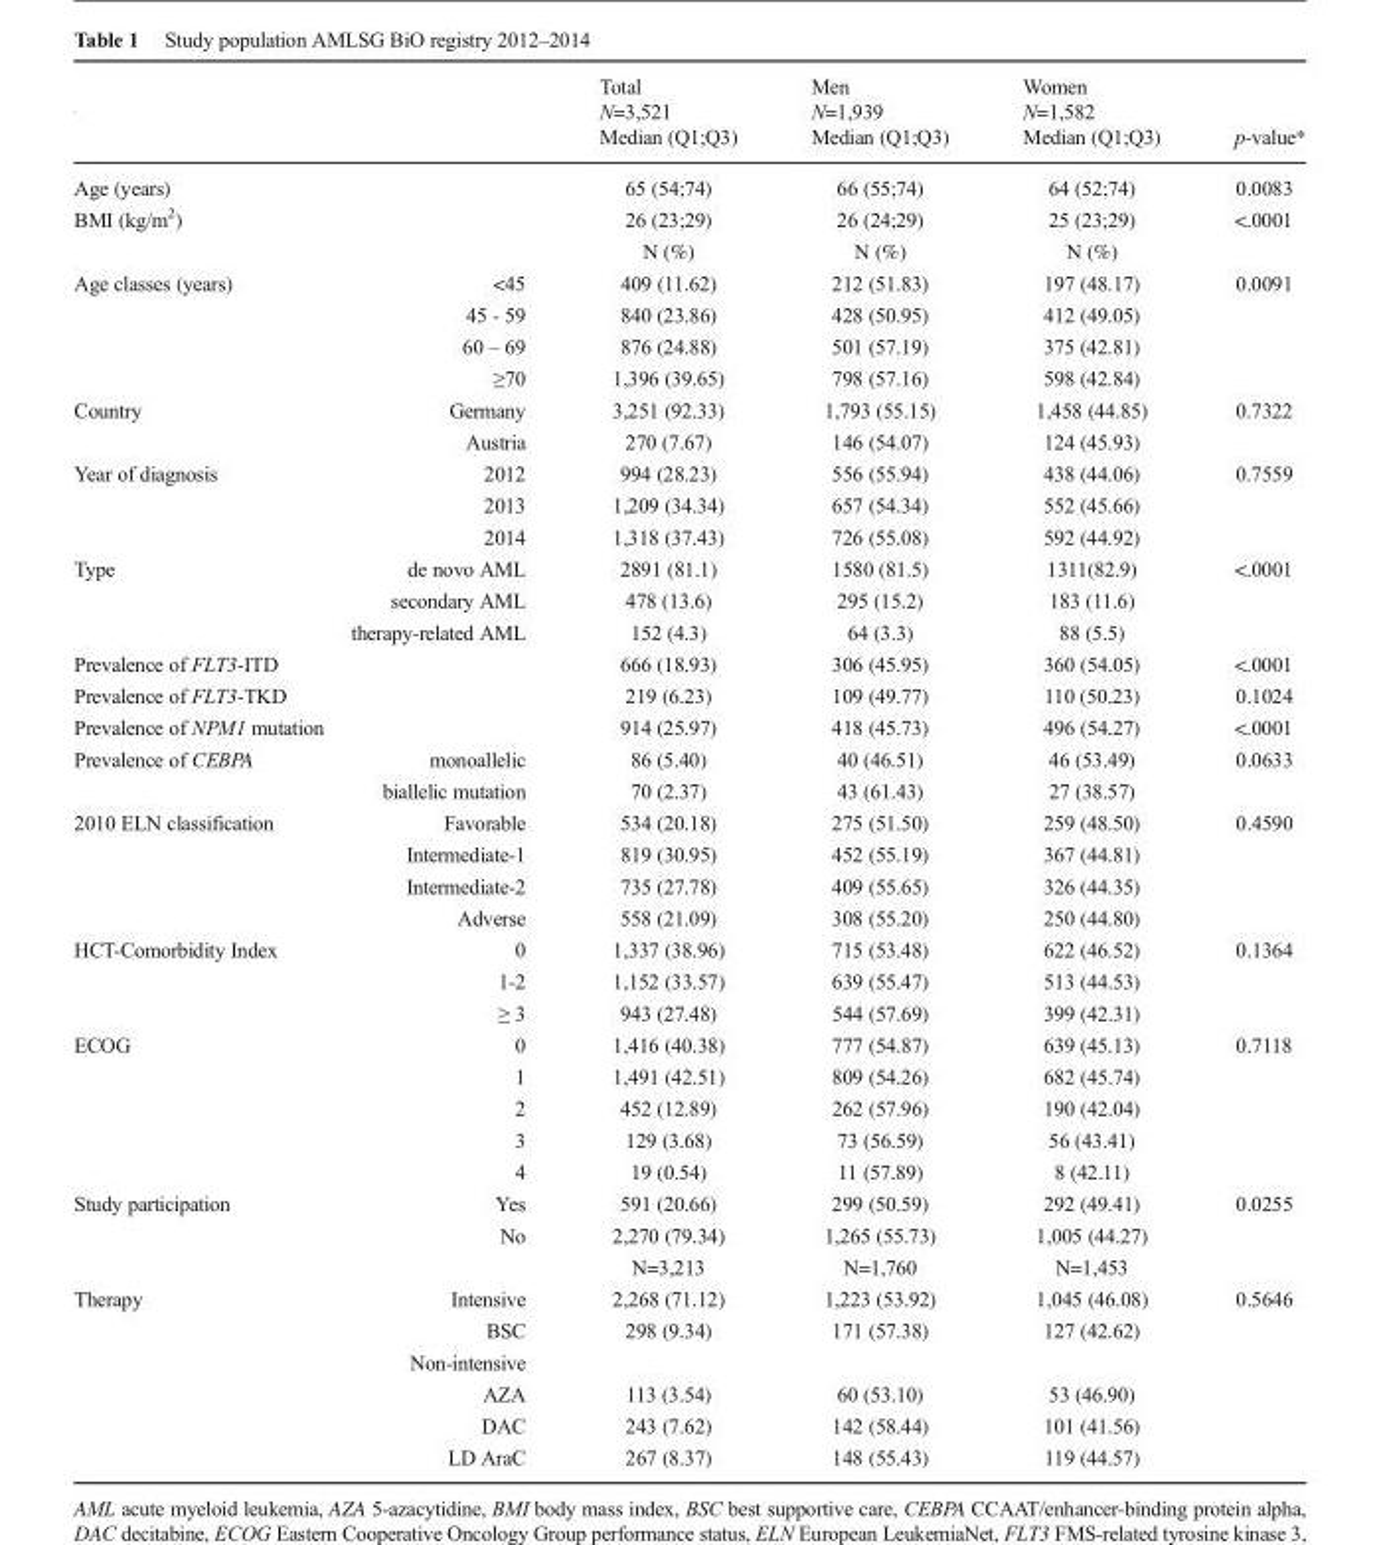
<table><thead><tr><td rowspan="2"></td><td rowspan="2"></td><td rowspan="2">Total N=3,521 Median (Q1;Q3)</td><td rowspan="2">Men N=1,939 Median (Q1;Q3)</td><td rowspan="2">Women N=1,582 Median (Q1;Q3)</td><td rowspan="2">p-value*</td></tr><tr></tr></thead><tbody><tr><td colspan="2">Age (years)</td><td>65 (54;74)</td><td>66 (55;74)</td><td>64 (52;74)</td><td>0.0083</td></tr><tr><td rowspan="2" colspan="2">BMI (kg/m<sup>2</sup>)</td><td>26 (23;29)</td><td>26 (24;29)</td><td>25 (23;29)</td><td>&lt;.0001</td></tr><tr><td>N (%)</td><td>N (%)</td><td>N (%)</td><td></td></tr><tr><td rowspan="4">Age classes (years)</td><td>&lt;45</td><td>409 (11.62)</td><td>212 (51.83)</td><td>197 (48.17)</td><td>0.0091</td></tr><tr><td>45 - 59</td><td>840 (23.86)</td><td>428 (50.95)</td><td>412 (49.05)</td><td></td></tr><tr><td>60 – 69</td><td>876 (24.88)</td><td>501 (57.19)</td><td>375 (42.81)</td><td></td></tr><tr><td>≥70</td><td>1,396 (39.65)</td><td>798 (57.16)</td><td>598 (42.84)</td><td></td></tr><tr><td rowspan="2">Country</td><td>Germany</td><td>3,251 (92.33)</td><td>1,793 (55.15)</td><td>1,458 (44.85)</td><td>0.7322</td></tr><tr><td>Austria</td><td>270 (7.67)</td><td>146 (54.07)</td><td>124 (45.93)</td><td></td></tr><tr><td rowspan="3">Year of diagnosis</td><td>2012</td><td>994 (28.23)</td><td>556 (55.94)</td><td>438 (44.06)</td><td>0.7559</td></tr><tr><td>2013</td><td>1,209 (34.34)</td><td>657 (54.34)</td><td>552 (45.66)</td><td></td></tr><tr><td>2014</td><td>1,318 (37.43)</td><td>726 (55.08)</td><td>592 (44.92)</td><td></td></tr><tr><td rowspan="3">Type</td><td>de novo AML</td><td>2891 (81.1)</td><td>1580 (81.5)</td><td>1311(82.9)</td><td>&lt;.0001</td></tr><tr><td>secondary AML</td><td>478 (13.6)</td><td>295 (15.2)</td><td>183 (11.6)</td><td></td></tr><tr><td>therapy-related AML</td><td>152 (4.3)</td><td>64 (3.3)</td><td>88 (5.5)</td><td></td></tr><tr><td colspan="2">Prevalence of FLT3-ITD</td><td>666 (18.93)</td><td>306 (45.95)</td><td>360 (54.05)</td><td>&lt;.0001</td></tr><tr><td colspan="2">Prevalence of FLT3-TKD</td><td>219 (6.23)</td><td>109 (49.77)</td><td>110 (50.23)</td><td>0.1024</td></tr><tr><td colspan="2">Prevalence of NPM1 mutation</td><td>914 (25.97)</td><td>418 (45.73)</td><td>496 (54.27)</td><td>&lt;.0001</td></tr><tr><td rowspan="2">Prevalence of CEBPA</td><td>monoallelic</td><td>86 (5.40)</td><td>40 (46.51)</td><td>46 (53.49)</td><td>0.0633</td></tr><tr><td>biallelic mutation</td><td>70 (2.37)</td><td>43 (61.43)</td><td>27 (38.57)</td><td></td></tr><tr><td rowspan="4">2010 ELN classification</td><td>Favorable</td><td>534 (20.18)</td><td>275 (51.50)</td><td>259 (48.50)</td><td>0.4590</td></tr><tr><td>Intermediate-1</td><td>819 (30.95)</td><td>452 (55.19)</td><td>367 (44.81)</td><td></td></tr><tr><td>Intermediate-2</td><td>735 (27.78)</td><td>409 (55.65)</td><td>326 (44.35)</td><td></td></tr><tr><td>Adverse</td><td>558 (21.09)</td><td>308 (55.20)</td><td>250 (44.80)</td><td></td></tr><tr><td rowspan="3">HCT-Comorbidity Index</td><td>0</td><td>1,337 (38.96)</td><td>715 (53.48)</td><td>622 (46.52)</td><td>0.1364</td></tr><tr><td>1-2</td><td>1,152 (33.57)</td><td>639 (55.47)</td><td>513 (44.53)</td><td></td></tr><tr><td>≥ 3</td><td>943 (27.48)</td><td>544 (57.69)</td><td>399 (42.31)</td><td></td></tr><tr><td rowspan="5">ECOG</td><td>0</td><td>1,416 (40.38)</td><td>777 (54.87)</td><td>639 (45.13)</td><td>0.7118</td></tr><tr><td>1</td><td>1,491 (42.51)</td><td>809 (54.26)</td><td>682 (45.74)</td><td></td></tr><tr><td>2</td><td>452 (12.89)</td><td>262 (57.96)</td><td>190 (42.04)</td><td></td></tr><tr><td>3</td><td>129 (3.68)</td><td>73 (56.59)</td><td>56 (43.41)</td><td></td></tr><tr><td>4</td><td>19 (0.54)</td><td>11 (57.89)</td><td>8 (42.11)</td><td></td></tr><tr><td rowspan="3">Study participation</td><td>Yes</td><td>591 (20.66)</td><td>299 (50.59)</td><td>292 (49.41)</td><td>0.0255</td></tr><tr><td>No</td><td>2,270 (79.34)</td><td>1,265 (55.73)</td><td>1,005 (44.27)</td><td></td></tr><tr><td></td><td>N=3,213</td><td>N=1,760</td><td>N=1,453</td><td></td></tr><tr><td rowspan="6">Therapy</td><td>Intensive</td><td>2,268 (71.12)</td><td>1,223 (53.92)</td><td>1,045 (46.08)</td><td>0.5646</td></tr><tr><td>BSC</td><td>298 (9.34)</td><td>171 (57.38)</td><td>127 (42.62)</td><td></td></tr><tr><td>Non-intensive</td><td></td><td></td><td></td><td></td></tr><tr><td>AZA</td><td>113 (3.54)</td><td>60 (53.10)</td><td>53 (46.90)</td><td></td></tr><tr><td>DAC</td><td>243 (7.62)</td><td>142 (58.44)</td><td>101 (41.56)</td><td></td></tr><tr><td>LD AraC</td><td>267 (8.37)</td><td>148 (55.43)</td><td>119 (44.57)</td><td></td></tr></tbody></table>